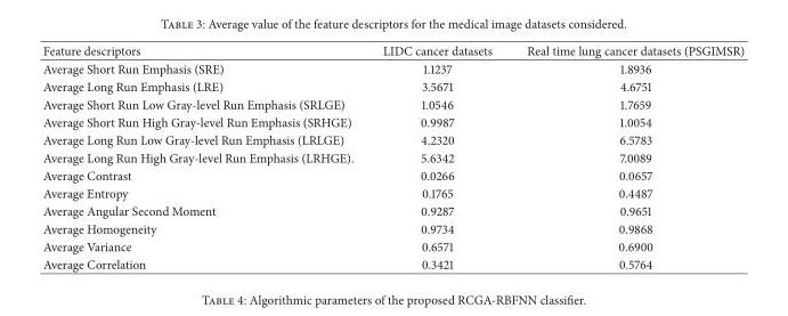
<table><thead><tr><td>Feature descriptors</td><td>LIDC cancer datasets</td><td>Real time lung cancer datasets (PSGIMSR)</td></tr></thead><tbody><tr><td>Average Short Run Emphasis (SRE)</td><td>1.1237</td><td>1.8936</td></tr><tr><td>Average Long Run Emphasis (LRE)</td><td>3.5671</td><td>4.6751</td></tr><tr><td>Average Short Run Low Gray-level Run Emphasis (SRLGE)</td><td>1.0546</td><td>1.7659</td></tr><tr><td>Average Short Run High Gray-level Run Emphasis (SRHGE)</td><td>0.9987</td><td>1.0054</td></tr><tr><td>Average Long Run Low Gray-level Run Emphasis (LRLGE)</td><td>4.2320</td><td>6.5783</td></tr><tr><td>Average Long Run High Gray-level Run Emphasis (LRHGE).</td><td>5.6342</td><td>7.0089</td></tr><tr><td>Average Contrast</td><td>0.0266</td><td>0.0657</td></tr><tr><td>Average Entropy</td><td>0.1765</td><td>0.4487</td></tr><tr><td>Average Angular Second Moment</td><td>0.9287</td><td>0.9651</td></tr><tr><td>Average Homogeneity</td><td>0.9734</td><td>0.9868</td></tr><tr><td>Average Variance</td><td>0.6571</td><td>0.6900</td></tr><tr><td>Average Correlation</td><td>0.3421</td><td>0.5764</td></tr></tbody></table>